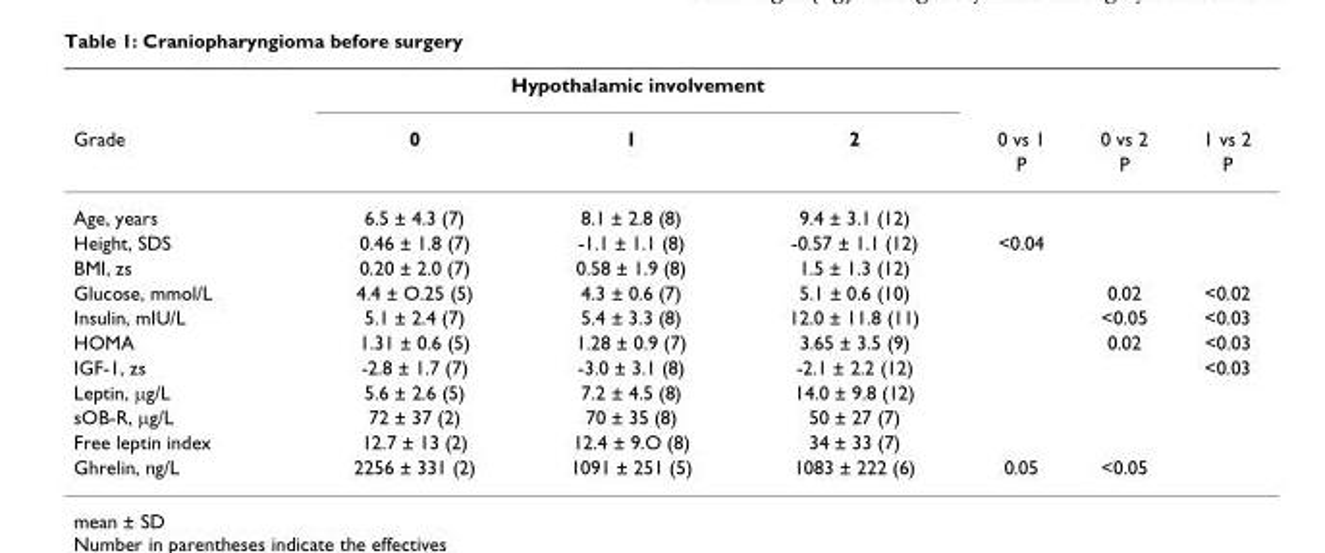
<table><thead><tr><td rowspan="3">Grade</td><td colspan="3">Hypothalamic involvement</td><td rowspan="3">0 vs 1 P</td><td rowspan="3">0 vs 2 P</td><td rowspan="3">1 vs 2 P</td></tr><tr><td rowspan="2">0</td><td rowspan="2">1</td><td rowspan="2">2</td></tr><tr></tr></thead><tbody><tr><td>Age, years</td><td>6.5 ± 4.3 (7)</td><td>8.1 ± 2.8 (8)</td><td>9.4 ± 3.1 (12)</td><td></td><td></td><td></td></tr><tr><td>Height, SDS</td><td>0.46 ± 1.8 (7)</td><td>-1.1 ± 1.1 (8)</td><td>-0.57 ± 1.1 (12)</td><td>&lt;0.04</td><td></td><td></td></tr><tr><td>BMI, zs</td><td>0.20 ± 2.0 (7)</td><td>0.58 ± 1.9 (8)</td><td>1.5 ± 1.3 (12)</td><td></td><td></td><td></td></tr><tr><td>Glucose, mmol/L</td><td>4.4 ± O.25 (5)</td><td>4.3 ± 0.6 (7)</td><td>5.1 ± 0.6 (10)</td><td></td><td>0.02</td><td>&lt;0.02</td></tr><tr><td>Insulin, mIU/L</td><td>5.1 ± 2.4 (7)</td><td>5.4 ± 3.3 (8)</td><td>12.0 ± 11.8 (11)</td><td></td><td>&lt;0.05</td><td>&lt;0.03</td></tr><tr><td>HOMA</td><td>1.31 ± 0.6 (5)</td><td>1.28 ± 0.9 (7)</td><td>3.65 ± 3.5 (9)</td><td></td><td>0.02</td><td>&lt;0.03</td></tr><tr><td>IGF-1, zs</td><td>-2.8 ± 1.7 (7)</td><td>-3.0 ± 3.1 (8)</td><td>-2.1 ± 2.2 (12)</td><td></td><td></td><td>&lt;0.03</td></tr><tr><td>Leptin, μg/L</td><td>5.6 ± 2.6 (5)</td><td>7.2 ± 4.5 (8)</td><td>14.0 ± 9.8 (12)</td><td></td><td></td><td></td></tr><tr><td>sOB-R, μg/L</td><td>72 ± 37 (2)</td><td>70 ± 35 (8)</td><td>50 ± 27 (7)</td><td></td><td></td><td></td></tr><tr><td>Free leptin index</td><td>12.7 ± 13 (2)</td><td>12.4 ± 9.O (8)</td><td>34 ± 33 (7)</td><td></td><td></td><td></td></tr><tr><td>Ghrelin, ng/L</td><td>2256 ± 331 (2)</td><td>1091 ± 251 (5)</td><td>1083 ± 222 (6)</td><td>0.05</td><td>&lt;0.05</td><td></td></tr></tbody></table>